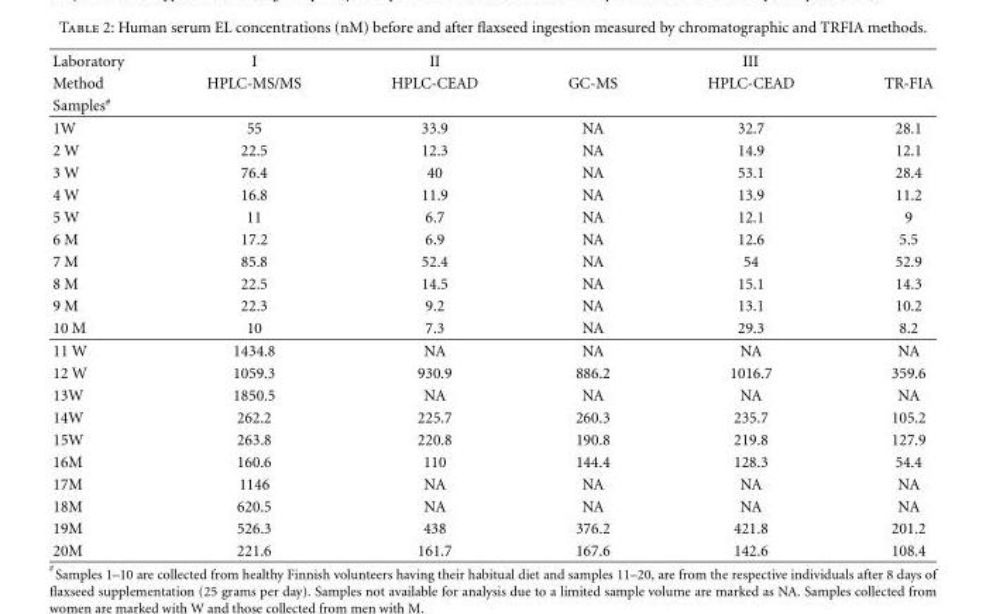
<table><thead><tr><td rowspan="3">Laboratory Method Samples<sup>#</sup></td><td rowspan="3">I HPLC-MS/MS</td><td rowspan="3">II HPLC-CEAD</td><td colspan="3">III</td></tr><tr><td rowspan="2">GC-MS</td><td rowspan="2">HPLC-CEAD</td><td rowspan="2">TR-FIA</td></tr><tr></tr></thead><tbody><tr><td>1W</td><td>55</td><td>33.9</td><td>NA</td><td>32.7</td><td>28.1</td></tr><tr><td>2 W</td><td>22.5</td><td>12.3</td><td>NA</td><td>14.9</td><td>12.1</td></tr><tr><td>3 W</td><td>76.4</td><td>40</td><td>NA</td><td>53.1</td><td>28.4</td></tr><tr><td>4 W</td><td>16.8</td><td>11.9</td><td>NA</td><td>13.9</td><td>11.2</td></tr><tr><td>5 W</td><td>11</td><td>6.7</td><td>NA</td><td>12.1</td><td>9</td></tr><tr><td>6 M</td><td>17.2</td><td>6.9</td><td>NA</td><td>12.6</td><td>5.5</td></tr><tr><td>7 M</td><td>85.8</td><td>52.4</td><td>NA</td><td>54</td><td>52.9</td></tr><tr><td>8 M</td><td>22.5</td><td>14.5</td><td>NA</td><td>15.1</td><td>14.3</td></tr><tr><td>9 M</td><td>22.3</td><td>9.2</td><td>NA</td><td>13.1</td><td>10.2</td></tr><tr><td>10 M</td><td>10</td><td>7.3</td><td>NA</td><td>29.3</td><td>8.2</td></tr><tr><td>11 W</td><td>1434.8</td><td>NA</td><td>NA</td><td>NA</td><td>NA</td></tr><tr><td>12 W</td><td>1059.3</td><td>930.9</td><td>886.2</td><td>1016.7</td><td>359.6</td></tr><tr><td>13W</td><td>1850.5</td><td>NA</td><td>NA</td><td>NA</td><td>NA</td></tr><tr><td>14W</td><td>262.2</td><td>225.7</td><td>260.3</td><td>235.7</td><td>105.2</td></tr><tr><td>15W</td><td>263.8</td><td>220.8</td><td>190.8</td><td>219.8</td><td>127.9</td></tr><tr><td>16M</td><td>160.6</td><td>110</td><td>144.4</td><td>128.3</td><td>54.4</td></tr><tr><td>17M</td><td>1146</td><td>NA</td><td>NA</td><td>NA</td><td>NA</td></tr><tr><td>18M</td><td>620.5</td><td>NA</td><td>NA</td><td>NA</td><td>NA</td></tr><tr><td>19M</td><td>526.3</td><td>438</td><td>376.2</td><td>421.8</td><td>201.2</td></tr><tr><td>20M</td><td>221.6</td><td>161.7</td><td>167.6</td><td>142.6</td><td>108.4</td></tr></tbody></table>